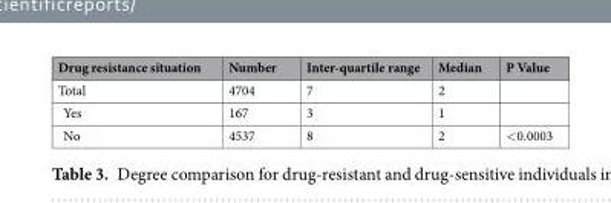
<table><thead><tr><td>Drug resistance situation</td><td>Number</td><td>Inter-quartile range</td><td>Median</td><td>P Value</td></tr></thead><tbody><tr><td>Total</td><td>4704</td><td>7</td><td>2</td><td></td></tr><tr><td>Yes</td><td>167</td><td>3</td><td>1</td><td></td></tr><tr><td>No</td><td>4537</td><td>8</td><td>2</td><td>&lt;0.0003</td></tr></tbody></table>